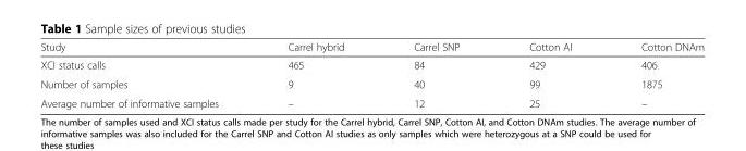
<table><thead><tr><td>Study</td><td>Carrel hybrid</td><td>Carrel SNP</td><td>Cotton AI</td><td>Cotton DNAm</td></tr></thead><tbody><tr><td>XCI status calls</td><td>465</td><td>84</td><td>429</td><td>406</td></tr><tr><td>Number of samples</td><td>9</td><td>40</td><td>99</td><td>1875</td></tr><tr><td>Average number of informative samples</td><td>–</td><td>12</td><td>25</td><td>–</td></tr></tbody></table>